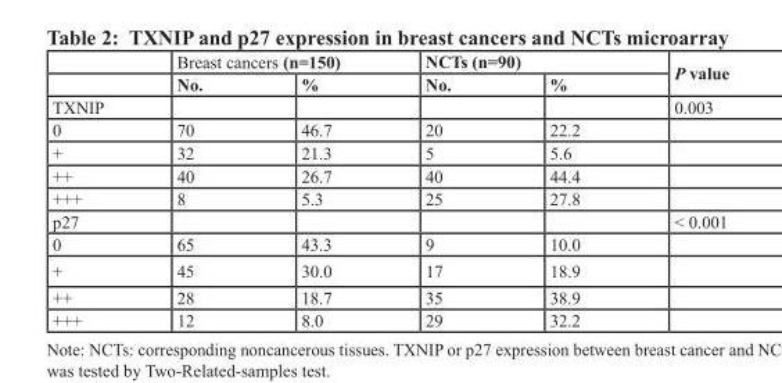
<table><thead><tr><td rowspan="2"></td><td colspan="2">Breast cancers (n=150)</td><td colspan="2">NCTs (n=90)</td><td rowspan="2">P value</td></tr><tr><td>No.</td><td>%</td><td>No.</td><td>%</td></tr></thead><tbody><tr><td>TXNIP</td><td></td><td></td><td></td><td></td><td>0.003</td></tr><tr><td>0</td><td>70</td><td>46.7</td><td>20</td><td>22.2</td><td></td></tr><tr><td>+</td><td>32</td><td>21.3</td><td>5</td><td>5.6</td><td></td></tr><tr><td>++</td><td>40</td><td>26.7</td><td>40</td><td>44.4</td><td></td></tr><tr><td>+++</td><td>8</td><td>5.3</td><td>25</td><td>27.8</td><td></td></tr><tr><td>p27</td><td></td><td></td><td></td><td></td><td>&lt; 0.001</td></tr><tr><td>0</td><td>65</td><td>43.3</td><td>9</td><td>10.0</td><td></td></tr><tr><td>+</td><td>45</td><td>30.0</td><td>17</td><td>18.9</td><td></td></tr><tr><td>++</td><td>28</td><td>18.7</td><td>35</td><td>38.9</td><td></td></tr><tr><td>+++</td><td>12</td><td>8.0</td><td>29</td><td>32.2</td><td></td></tr></tbody></table>